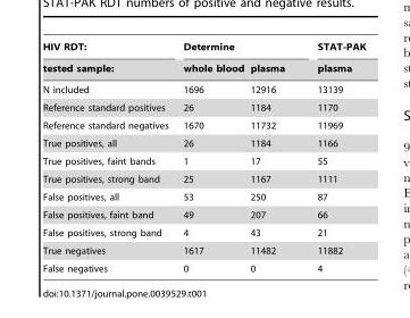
<table><thead><tr><td rowspan="2">HIV RDT: tested sample:</td><td colspan="2">Determine</td><td rowspan="2">STAT-PAK plasma</td></tr><tr><td>whole blood</td><td>plasma</td></tr></thead><tbody><tr><td>N included</td><td>1696</td><td>12916</td><td>13139</td></tr><tr><td>Reference standard positives</td><td>26</td><td>1184</td><td>1170</td></tr><tr><td>Reference standard negatives</td><td>1670</td><td>11732</td><td>11969</td></tr><tr><td>True positives, all</td><td>26</td><td>1184</td><td>1166</td></tr><tr><td>True positives, faint bands</td><td>1</td><td>17</td><td>55</td></tr><tr><td>True positives, strong band</td><td>25</td><td>1167</td><td>1111</td></tr><tr><td>False positives, all</td><td>53</td><td>250</td><td>87</td></tr><tr><td>False positives, faint band</td><td>49</td><td>207</td><td>66</td></tr><tr><td>False positives, strong band</td><td>4</td><td>43</td><td>21</td></tr><tr><td>True negatives</td><td>1617</td><td>11482</td><td>11882</td></tr><tr><td>False negatives</td><td>0</td><td>0</td><td>4</td></tr></tbody></table>